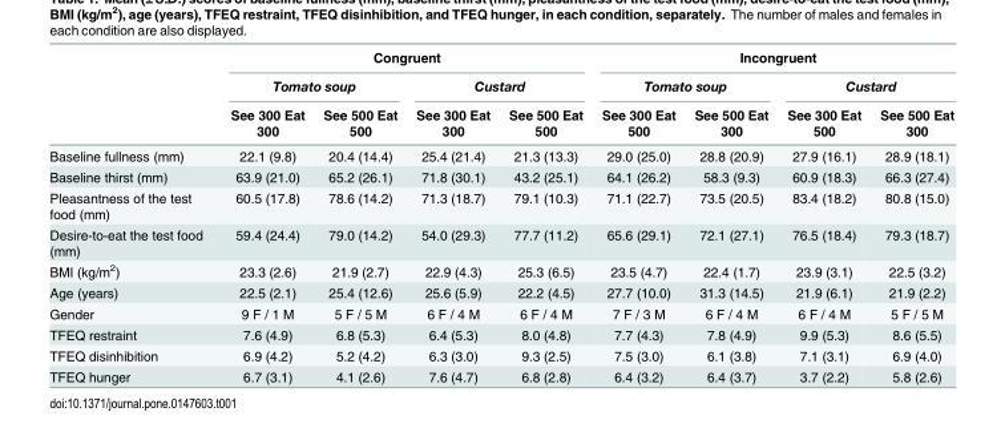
<table><thead><tr><td rowspan="3"></td><td colspan="4">Congruent</td><td colspan="4">Incongruent</td></tr><tr><td colspan="2">Tomato soup</td><td colspan="2">Custard</td><td colspan="2">Tomato soup</td><td colspan="2">Custard</td></tr><tr><td>See 300 Eat 300</td><td>See 500 Eat 500</td><td>See 300 Eat 300</td><td>See 500 Eat 500</td><td>See 300 Eat 500</td><td>See 500 Eat 300</td><td>See 300 Eat 500</td><td>See 500 Eat 300</td></tr></thead><tbody><tr><td>Baseline fullness (mm)</td><td>22.1 (9.8)</td><td>20.4 (14.4)</td><td>25.4 (21.4)</td><td>21.3 (13.3)</td><td>29.0 (25.0)</td><td>28.8 (20.9)</td><td>27.9 (16.1)</td><td>28.9 (18.1)</td></tr><tr><td>Baseline thirst (mm)</td><td>63.9 (21.0)</td><td>65.2 (26.1)</td><td>71.8 (30.1)</td><td>43.2 (25.1)</td><td>64.1 (26.2)</td><td>58.3 (9.3)</td><td>60.9 (18.3)</td><td>66.3 (27.4)</td></tr><tr><td>Pleasantness of the test food (mm)</td><td>60.5 (17.8)</td><td>78.6 (14.2)</td><td>71.3 (18.7)</td><td>79.1 (10.3)</td><td>71.1 (22.7)</td><td>73.5 (20.5)</td><td>83.4 (18.2)</td><td>80.8 (15.0)</td></tr><tr><td>Desire-to-eat the test food (mm)</td><td>59.4 (24.4)</td><td>79.0 (14.2)</td><td>54.0 (29.3)</td><td>77.7 (11.2)</td><td>65.6 (29.1)</td><td>72.1 (27.1)</td><td>76.5 (18.4)</td><td>79.3 (18.7)</td></tr><tr><td>BMI (kg/m<sup>2</sup>)</td><td>23.3 (2.6)</td><td>21.9 (2.7)</td><td>22.9 (4.3)</td><td>25.3 (6.5)</td><td>23.5 (4.7)</td><td>22.4 (1.7)</td><td>23.9 (3.1)</td><td>22.5 (3.2)</td></tr><tr><td>Age (years)</td><td>22.5 (2.1)</td><td>25.4 (12.6)</td><td>25.6 (5.9)</td><td>22.2 (4.5)</td><td>27.7 (10.0)</td><td>31.3 (14.5)</td><td>21.9 (6.1)</td><td>21.9 (2.2)</td></tr><tr><td>Gender</td><td>9 F / 1 M</td><td>5 F / 5 M</td><td>6 F / 4 M</td><td>6 F / 4 M</td><td>7 F / 3 M</td><td>6 F / 4 M</td><td>6 F / 4 M</td><td>5 F / 5 M</td></tr><tr><td>TFEQ restraint</td><td>7.6 (4.9)</td><td>6.8 (5.3)</td><td>6.4 (5.3)</td><td>8.0 (4.8)</td><td>7.7 (4.3)</td><td>7.8 (4.9)</td><td>9.9 (5.3)</td><td>8.6 (5.5)</td></tr><tr><td>TFEQ disinhibition</td><td>6.9 (4.2)</td><td>5.2 (4.2)</td><td>6.3 (3.0)</td><td>9.3 (2.5)</td><td>7.5 (3.0)</td><td>6.1 (3.8)</td><td>7.1 (3.1)</td><td>6.9 (4.0)</td></tr><tr><td>TFEQ hunger</td><td>6.7 (3.1)</td><td>4.1 (2.6)</td><td>7.6 (4.7)</td><td>6.8 (2.8)</td><td>6.4 (3.2)</td><td>6.4 (3.7)</td><td>3.7 (2.2)</td><td>5.8 (2.6)</td></tr></tbody></table>